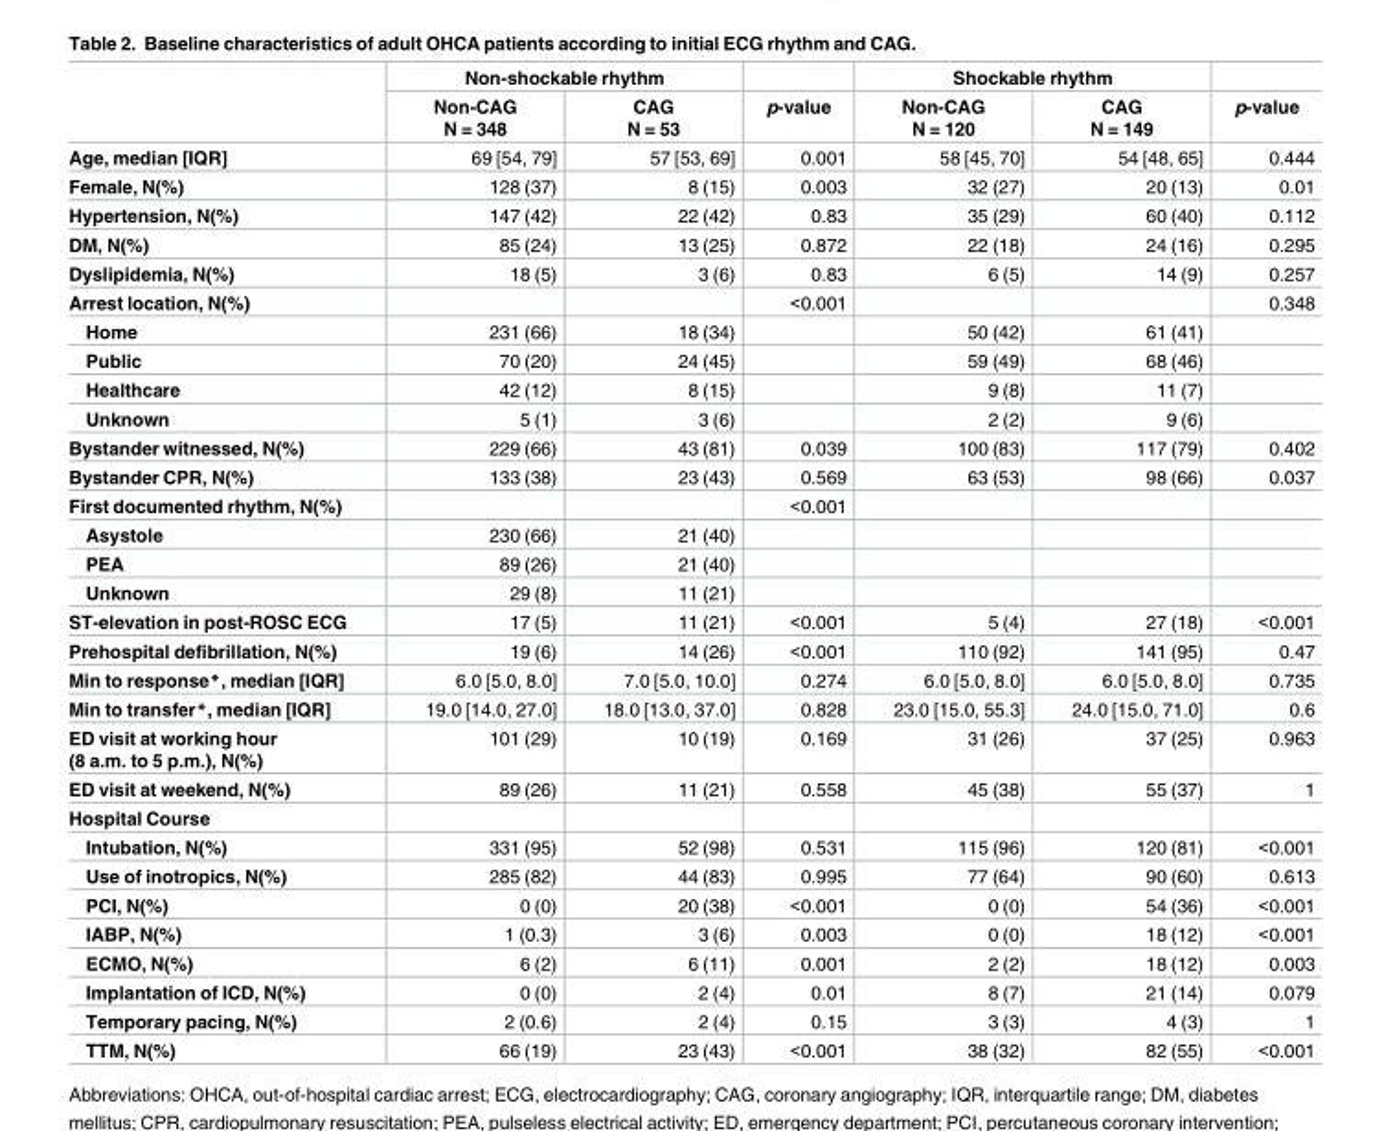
<table><thead><tr><td rowspan="2"></td><td colspan="2">Non-shockable rhythm</td><td rowspan="2">p-value</td><td colspan="2">Shockable rhythm</td><td rowspan="2">p-value</td></tr><tr><td>Non-CAG N = 348</td><td>CAG N = 53</td><td>Non-CAG N = 120</td><td>CAG N = 149</td></tr></thead><tbody><tr><td>Age, median [IQR]</td><td>69 [54, 79]</td><td>57 [53, 69]</td><td>0.001</td><td>58 [45, 70]</td><td>54 [48, 65]</td><td>0.444</td></tr><tr><td>Female, N(%)</td><td>128 (37)</td><td>8 (15)</td><td>0.003</td><td>32 (27)</td><td>20 (13)</td><td>0.01</td></tr><tr><td>Hypertension, N(%)</td><td>147 (42)</td><td>22 (42)</td><td>0.83</td><td>35 (29)</td><td>60 (40)</td><td>0.112</td></tr><tr><td>DM, N(%)</td><td>85 (24)</td><td>13 (25)</td><td>0.872</td><td>22 (18)</td><td>24 (16)</td><td>0.295</td></tr><tr><td>Dyslipidemia, N(%)</td><td>18 (5)</td><td>3 (6)</td><td>0.83</td><td>6 (5)</td><td>14 (9)</td><td>0.257</td></tr><tr><td>Arrest location, N(%)</td><td></td><td></td><td>&lt;0.001</td><td></td><td></td><td>0.348</td></tr><tr><td>Home</td><td>231 (66)</td><td>18 (34)</td><td></td><td>50 (42)</td><td>61 (41)</td><td></td></tr><tr><td>Public</td><td>70 (20)</td><td>24 (45)</td><td></td><td>59 (49)</td><td>68 (46)</td><td></td></tr><tr><td>Healthcare</td><td>42 (12)</td><td>8 (15)</td><td></td><td>9 (8)</td><td>11 (7)</td><td></td></tr><tr><td>Unknown</td><td>5 (1)</td><td>3 (6)</td><td></td><td>2 (2)</td><td>9 (6)</td><td></td></tr><tr><td>Bystander witnessed, N(%)</td><td>229 (66)</td><td>43 (81)</td><td>0.039</td><td>100 (83)</td><td>117 (79)</td><td>0.402</td></tr><tr><td>Bystander CPR, N(%)</td><td>133 (38)</td><td>23 (43)</td><td>0.569</td><td>63 (53)</td><td>98 (66)</td><td>0.037</td></tr><tr><td>First documented rhythm, N(%)</td><td></td><td></td><td>&lt;0.001</td><td></td><td></td><td></td></tr><tr><td>Asystole</td><td>230 (66)</td><td>21 (40)</td><td></td><td></td><td></td><td></td></tr><tr><td>PEA</td><td>89 (26)</td><td>21 (40)</td><td></td><td></td><td></td><td></td></tr><tr><td>Unknown</td><td>29 (8)</td><td>11 (21)</td><td></td><td></td><td></td><td></td></tr><tr><td>ST-elevation in post-ROSC ECG</td><td>17 (5)</td><td>11 (21)</td><td>&lt;0.001</td><td>5 (4)</td><td>27 (18)</td><td>&lt;0.001</td></tr><tr><td>Prehospital defibrillation, N(%)</td><td>19 (6)</td><td>14 (26)</td><td>&lt;0.001</td><td>110 (92)</td><td>141 (95)</td><td>0.47</td></tr><tr><td>Min to response*, median [IQR]</td><td>6.0 [5.0, 8.0]</td><td>7.0 [5.0, 10.0]</td><td>0.274</td><td>6.0 [5.0, 8.0]</td><td>6.0 [5.0, 8.0]</td><td>0.735</td></tr><tr><td>Min to transfer*, median [IQR]</td><td>19.0 [14.0, 27.0]</td><td>18.0 [13.0, 37.0]</td><td>0.828</td><td>23.0 [15.0, 55.3]</td><td>24.0 [15.0, 71.0]</td><td>0.6</td></tr><tr><td>ED visit at working hour (8 a.m. to 5 p.m.), N(%)</td><td>101 (29)</td><td>10 (19)</td><td>0.169</td><td>31 (26)</td><td>37 (25)</td><td>0.963</td></tr><tr><td>ED visit at weekend, N(%)</td><td>89 (26)</td><td>11 (21)</td><td>0.558</td><td>45 (38)</td><td>55 (37)</td><td>1</td></tr><tr><td colspan="7">Hospital Course</td></tr><tr><td>Intubation, N(%)</td><td>331 (95)</td><td>52 (98)</td><td>0.531</td><td>115 (96)</td><td>120 (81)</td><td>&lt;0.001</td></tr><tr><td>Use of inotropics, N(%)</td><td>285 (82)</td><td>44 (83)</td><td>0.995</td><td>77 (64)</td><td>90 (60)</td><td>0.613</td></tr><tr><td>PCI, N(%)</td><td>0 (0)</td><td>20 (38)</td><td>&lt;0.001</td><td>0 (0)</td><td>54 (36)</td><td>&lt;0.001</td></tr><tr><td>IABP, N(%)</td><td>1 (0.3)</td><td>3 (6)</td><td>0.003</td><td>0 (0)</td><td>18 (12)</td><td>&lt;0.001</td></tr><tr><td>ECMO, N(%)</td><td>6 (2)</td><td>6 (11)</td><td>0.001</td><td>2 (2)</td><td>18 (12)</td><td>0.003</td></tr><tr><td>Implantation of ICD, N(%)</td><td>0 (0)</td><td>2 (4)</td><td>0.01</td><td>8 (7)</td><td>21 (14)</td><td>0.079</td></tr><tr><td>Temporary pacing, N(%)</td><td>2 (0.6)</td><td>2 (4)</td><td>0.15</td><td>3 (3)</td><td>4 (3)</td><td>1</td></tr><tr><td>TTM, N(%)</td><td>66 (19)</td><td>23 (43)</td><td>&lt;0.001</td><td>38 (32)</td><td>82 (55)</td><td>&lt;0.001</td></tr></tbody></table>